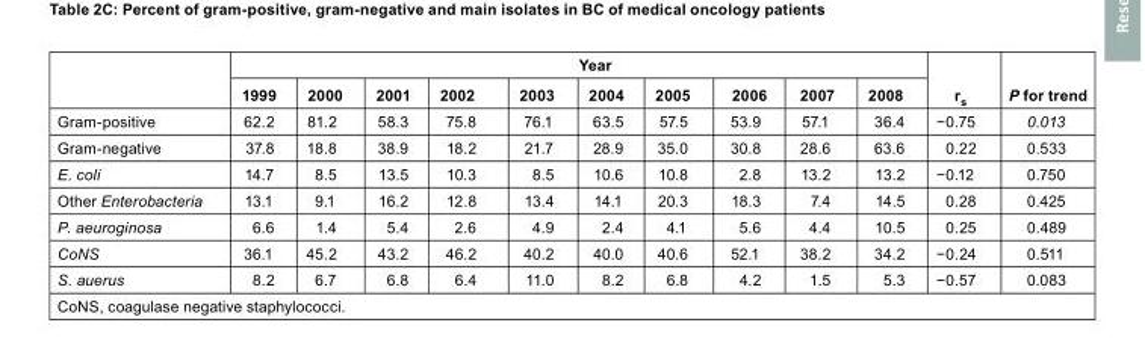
<table><thead><tr><td rowspan="2"></td><td colspan="10">Year</td><td rowspan="2">r<sub>s</sub></td><td rowspan="2">P for trend</td></tr><tr><td>1999</td><td>2000</td><td>2001</td><td>2002</td><td>2003</td><td>2004</td><td>2005</td><td>2006</td><td>2007</td><td>2008</td></tr></thead><tbody><tr><td>Gram-positive</td><td>62.2</td><td>81.2</td><td>58.3</td><td>75.8</td><td>76.1</td><td>63.5</td><td>57.5</td><td>53.9</td><td>57.1</td><td>36.4</td><td>−0.75</td><td>0.013</td></tr><tr><td>Gram-negative</td><td>37.8</td><td>18.8</td><td>38.9</td><td>18.2</td><td>21.7</td><td>28.9</td><td>35.0</td><td>30.8</td><td>28.6</td><td>63.6</td><td>0.22</td><td>0.533</td></tr><tr><td>E. coli</td><td>14.7</td><td>8.5</td><td>13.5</td><td>10.3</td><td>8.5</td><td>10.6</td><td>10.8</td><td>2.8</td><td>13.2</td><td>13.2</td><td>−0.12</td><td>0.750</td></tr><tr><td>Other Enterobacteria</td><td>13.1</td><td>9.1</td><td>16.2</td><td>12.8</td><td>13.4</td><td>14.1</td><td>20.3</td><td>18.3</td><td>7.4</td><td>14.5</td><td>0.28</td><td>0.425</td></tr><tr><td>P. aeuroginosa</td><td>6.6</td><td>1.4</td><td>5.4</td><td>2.6</td><td>4.9</td><td>2.4</td><td>4.1</td><td>5.6</td><td>4.4</td><td>10.5</td><td>0.25</td><td>0.489</td></tr><tr><td>CoNS</td><td>36.1</td><td>45.2</td><td>43.2</td><td>46.2</td><td>40.2</td><td>40.0</td><td>40.6</td><td>52.1</td><td>38.2</td><td>34.2</td><td>−0.24</td><td>0.511</td></tr><tr><td>S. auerus</td><td>8.2</td><td>6.7</td><td>6.8</td><td>6.4</td><td>11.0</td><td>8.2</td><td>6.8</td><td>4.2</td><td>1.5</td><td>5.3</td><td>−0.57</td><td>0.083</td></tr></tbody></table>